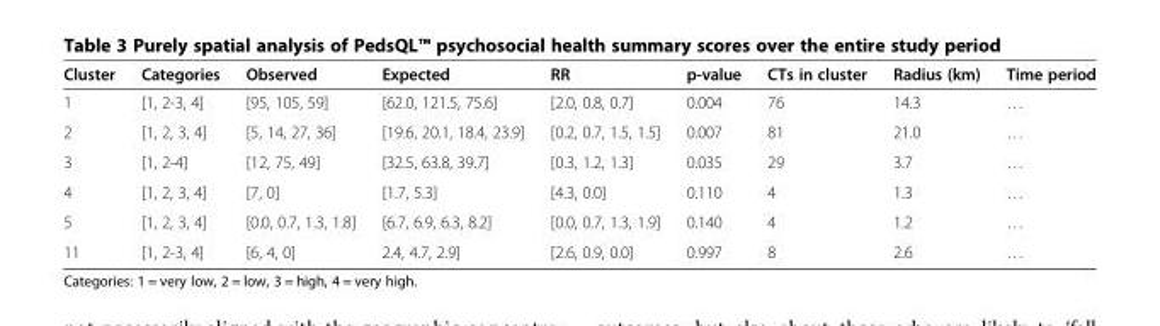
<table><thead><tr><td>Cluster</td><td>Categories</td><td>Observed</td><td>Expected</td><td>RR</td><td>p-value</td><td>CTs in cluster</td><td>Radius (km)</td><td>Time period</td></tr></thead><tbody><tr><td>1</td><td>[1, 2-3, 4]</td><td>[95, 105, 59]</td><td>[62.0, 121.5, 75.6]</td><td>[2.0, 0.8, 0.7]</td><td>0.004</td><td>76</td><td>14.3</td><td>…</td></tr><tr><td>2</td><td>[1, 2, 3, 4]</td><td>[5, 14, 27, 36]</td><td>[19.6, 20.1, 18.4, 23.9]</td><td>[0.2, 0.7, 1.5, 1.5]</td><td>0.007</td><td>81</td><td>21.0</td><td>…</td></tr><tr><td>3</td><td>[1, 2-4]</td><td>[12, 75, 49]</td><td>[32.5, 63.8, 39.7]</td><td>[0.3, 1.2, 1.3]</td><td>0.035</td><td>29</td><td>3.7</td><td>…</td></tr><tr><td>4</td><td>[1, 2, 3, 4]</td><td>[7, 0]</td><td>[1.7, 5.3]</td><td>[4.3, 0.0]</td><td>0.110</td><td>4</td><td>1.3</td><td>…</td></tr><tr><td>5</td><td>[1, 2, 3, 4]</td><td>[0.0, 0.7, 1.3, 1.8]</td><td>[6.7, 6.9, 6.3, 8.2]</td><td>[0.0, 0.7, 1.3, 1.9]</td><td>0.140</td><td>4</td><td>1.2</td><td>…</td></tr><tr><td>11</td><td>[1, 2-3, 4]</td><td>[6, 4, 0]</td><td>2.4, 4.7, 2.9]</td><td>[2.6, 0.9, 0.0]</td><td>0.997</td><td>8</td><td>2.6</td><td>…</td></tr></tbody></table>